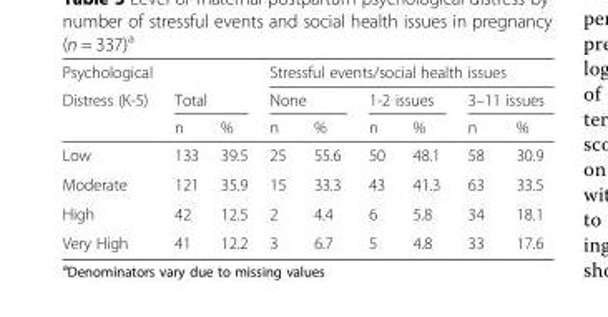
<table><thead><tr><td rowspan="3">Psychological Distress (K-5)</td><td></td><td></td><td colspan="6">Stressful events/social health issues</td></tr><tr><td colspan="2">Total</td><td colspan="2">None</td><td colspan="2">1-2 issues</td><td colspan="2">3–11 issues</td></tr><tr><td>n</td><td>%</td><td>n</td><td>%</td><td>n</td><td>%</td><td>n</td><td>%</td></tr></thead><tbody><tr><td>Low</td><td>133</td><td>39.5</td><td>25</td><td>55.6</td><td>50</td><td>48.1</td><td>58</td><td>30.9</td></tr><tr><td>Moderate</td><td>121</td><td>35.9</td><td>15</td><td>33.3</td><td>43</td><td>41.3</td><td>63</td><td>33.5</td></tr><tr><td>High</td><td>42</td><td>12.5</td><td>2</td><td>4.4</td><td>6</td><td>5.8</td><td>34</td><td>18.1</td></tr><tr><td>Very High</td><td>41</td><td>12.2</td><td>3</td><td>6.7</td><td>5</td><td>4.8</td><td>33</td><td>17.6</td></tr></tbody></table>